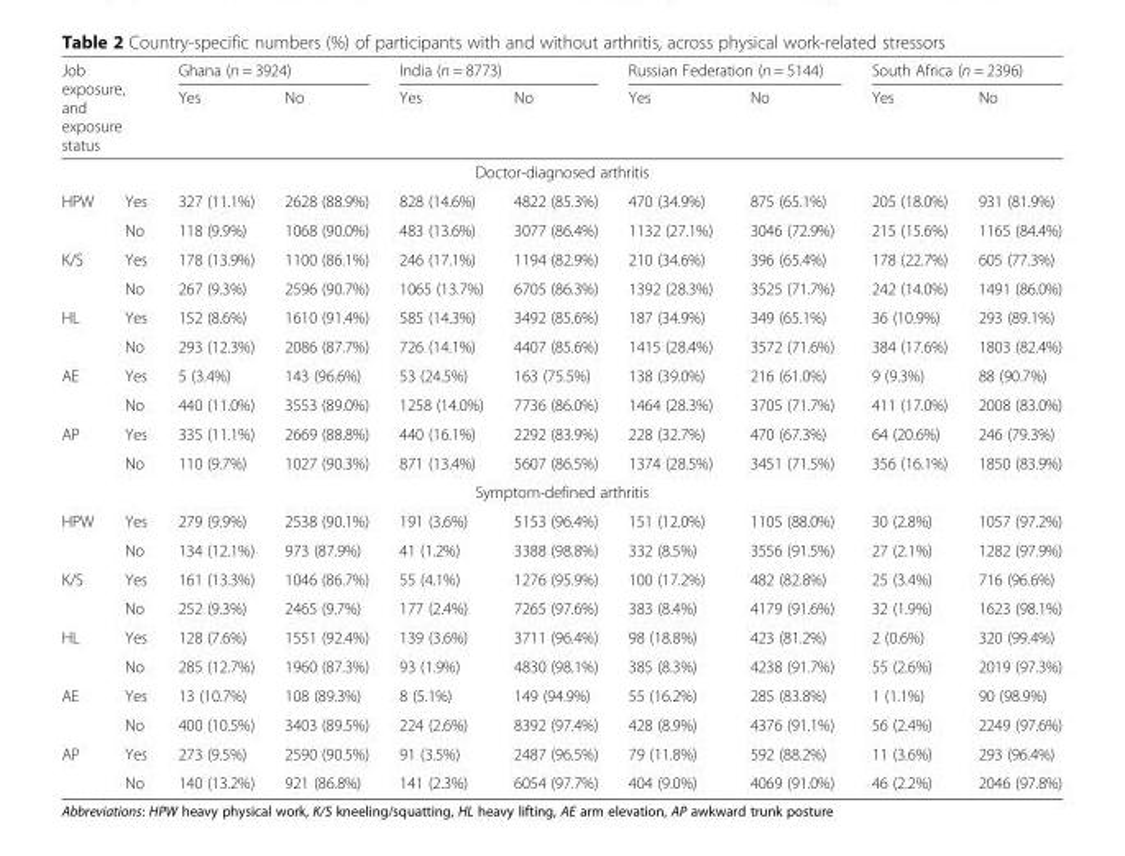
<table><thead><tr><td rowspan="2" colspan="2">Job exposure, and exposure status</td><td colspan="2">Ghana (n = 3924)</td><td colspan="2">India (n = 8773)</td><td colspan="2">Russian Federation (n = 5144)</td><td colspan="2">South Africa (n = 2396)</td></tr><tr><td>Yes</td><td>No</td><td>Yes</td><td>No</td><td>Yes</td><td>No</td><td>Yes</td><td>No</td></tr><tr><td colspan="10">Doctor-diagnosed arthritis</td></tr><tr><td>HPW</td><td>Yes</td><td>327 (11.1%)</td><td>2628 (88.9%)</td><td>828 (14.6%)</td><td>4822 (85.3%)</td><td>470 (34.9%)</td><td>875 (65.1%)</td><td>205 (18.0%)</td><td>931 (81.9%)</td></tr></thead><tbody><tr><td></td><td>No</td><td>118 (9.9%)</td><td>1068 (90.0%)</td><td>483 (13.6%)</td><td>3077 (86.4%)</td><td>1132 (27.1%)</td><td>3046 (72.9%)</td><td>215 (15.6%)</td><td>1165 (84.4%)</td></tr><tr><td rowspan="2">K/S</td><td>Yes</td><td>178 (13.9%)</td><td>1100 (86.1%)</td><td>246 (17.1%)</td><td>1194 (82.9%)</td><td>210 (34.6%)</td><td>396 (65.4%)</td><td>178 (22.7%)</td><td>605 (77.3%)</td></tr><tr><td>No</td><td>267 (9.3%)</td><td>2596 (90.7%)</td><td>1065 (13.7%)</td><td>6705 (86.3%)</td><td>1392 (28.3%)</td><td>3525 (71.7%)</td><td>242 (14.0%)</td><td>1491 (86.0%)</td></tr><tr><td rowspan="2">HL</td><td>Yes</td><td>152 (8.6%)</td><td>1610 (91.4%)</td><td>585 (14.3%)</td><td>3492 (85.6%)</td><td>187 (34.9%)</td><td>349 (65.1%)</td><td>36 (10.9%)</td><td>293 (89.1%)</td></tr><tr><td>No</td><td>293 (12.3%)</td><td>2086 (87.7%)</td><td>726 (14.1%)</td><td>4407 (85.6%)</td><td>1415 (28.4%)</td><td>3572 (71.6%)</td><td>384 (17.6%)</td><td>1803 (82.4%)</td></tr><tr><td rowspan="2">AE</td><td>Yes</td><td>5 (3.4%)</td><td>143 (96.6%)</td><td>53 (24.5%)</td><td>163 (75.5%)</td><td>138 (39.0%)</td><td>216 (61.0%)</td><td>9 (9.3%)</td><td>88 (90.7%)</td></tr><tr><td>No</td><td>440 (11.0%)</td><td>3553 (89.0%)</td><td>1258 (14.0%)</td><td>7736 (86.0%)</td><td>1464 (28.3%)</td><td>3705 (71.7%)</td><td>411 (17.0%)</td><td>2008 (83.0%)</td></tr><tr><td rowspan="2">AP</td><td>Yes</td><td>335 (11.1%)</td><td>2669 (88.8%)</td><td>440 (16.1%)</td><td>2292 (83.9%)</td><td>228 (32.7%)</td><td>470 (67.3%)</td><td>64 (20.6%)</td><td>246 (79.3%)</td></tr><tr><td>No</td><td>110 (9.7%)</td><td>1027 (90.3%)</td><td>871 (13.4%)</td><td>5607 (86.5%)</td><td>1374 (28.5%)</td><td>3451 (71.5%)</td><td>356 (16.1%)</td><td>1850 (83.9%)</td></tr><tr><td colspan="10">Symptom-defined arthritis</td></tr><tr><td rowspan="2">HPW</td><td>Yes</td><td>279 (9.9%)</td><td>2538 (90.1%)</td><td>191 (3.6%)</td><td>5153 (96.4%)</td><td>151 (12.0%)</td><td>1105 (88.0%)</td><td>30 (2.8%)</td><td>1057 (97.2%)</td></tr><tr><td>No</td><td>134 (12.1%)</td><td>973 (87.9%)</td><td>41 (1.2%)</td><td>3388 (98.8%)</td><td>332 (8.5%)</td><td>3556 (91.5%)</td><td>27 (2.1%)</td><td>1282 (97.9%)</td></tr><tr><td rowspan="2">K/S</td><td>Yes</td><td>161 (13.3%)</td><td>1046 (86.7%)</td><td>55 (4.1%)</td><td>1276 (95.9%)</td><td>100 (17.2%)</td><td>482 (82.8%)</td><td>25 (3.4%)</td><td>716 (96.6%)</td></tr><tr><td>No</td><td>252 (9.3%)</td><td>2465 (9.7%)</td><td>177 (2.4%)</td><td>7265 (97.6%)</td><td>383 (8.4%)</td><td>4179 (91.6%)</td><td>32 (1.9%)</td><td>1623 (98.1%)</td></tr><tr><td rowspan="2">HL</td><td>Yes</td><td>128 (7.6%)</td><td>1551 (92.4%)</td><td>139 (3.6%)</td><td>3711 (96.4%)</td><td>98 (18.8%)</td><td>423 (81.2%)</td><td>2 (0.6%)</td><td>320 (99.4%)</td></tr><tr><td>No</td><td>285 (12.7%)</td><td>1960 (87.3%)</td><td>93 (1.9%)</td><td>4830 (98.1%)</td><td>385 (8.3%)</td><td>4238 (91.7%)</td><td>55 (2.6%)</td><td>2019 (97.3%)</td></tr><tr><td rowspan="2">AE</td><td>Yes</td><td>13 (10.7%)</td><td>108 (89.3%)</td><td>8 (5.1%)</td><td>149 (94.9%)</td><td>55 (16.2%)</td><td>285 (83.8%)</td><td>1 (1.1%)</td><td>90 (98.9%)</td></tr><tr><td>No</td><td>400 (10.5%)</td><td>3403 (89.5%)</td><td>224 (2.6%)</td><td>8392 (97.4%)</td><td>428 (8.9%)</td><td>4376 (91.1%)</td><td>56 (2.4%)</td><td>2249 (97.6%)</td></tr><tr><td rowspan="2">AP</td><td>Yes</td><td>273 (9.5%)</td><td>2590 (90.5%)</td><td>91 (3.5%)</td><td>2487 (96.5%)</td><td>79 (11.8%)</td><td>592 (88.2%)</td><td>11 (3.6%)</td><td>293 (96.4%)</td></tr><tr><td>No</td><td>140 (13.2%)</td><td>921 (86.8%)</td><td>141 (2.3%)</td><td>6054 (97.7%)</td><td>404 (9.0%)</td><td>4069 (91.0%)</td><td>46 (2.2%)</td><td>2046 (97.8%)</td></tr></tbody></table>